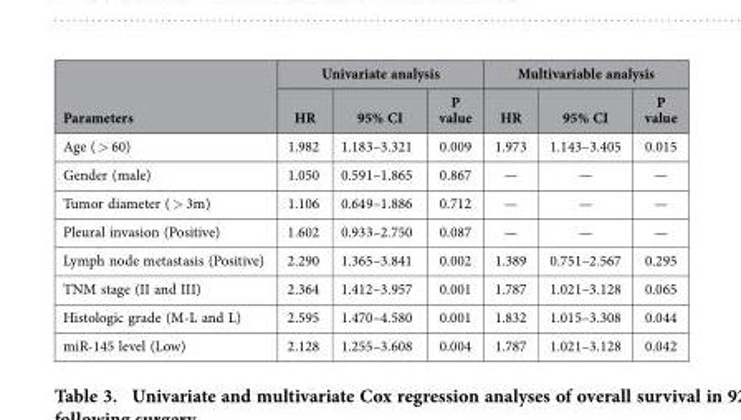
<table><thead><tr><td rowspan="2">Parameters</td><td colspan="3">Univariate analysis</td><td colspan="3">Multivariable analysis</td></tr><tr><td>HR</td><td>95% CI</td><td>P value</td><td>HR</td><td>95% CI</td><td>P value</td></tr></thead><tbody><tr><td>Age ( &gt; 60)</td><td>1.982</td><td>1.183–3.321</td><td>0.009</td><td>1.973</td><td>1.143–3.405</td><td>0.015</td></tr><tr><td>Gender (male)</td><td>1.050</td><td>0.591–1.865</td><td>0.867</td><td>—</td><td>—</td><td>—</td></tr><tr><td>Tumor diameter ( &gt; 3m)</td><td>1.106</td><td>0.649–1.886</td><td>0.712</td><td>—</td><td>—</td><td>—</td></tr><tr><td>Pleural invasion (Positive)</td><td>1.602</td><td>0.933–2.750</td><td>0.087</td><td>—</td><td>—</td><td>—</td></tr><tr><td>Lymph node metastasis (Positive)</td><td>2.290</td><td>1.365–3.841</td><td>0.002</td><td>1.389</td><td>0.751–2.567</td><td>0.295</td></tr><tr><td>TNM stage (II and III)</td><td>2.364</td><td>1.412–3.957</td><td>0.001</td><td>1.787</td><td>1.021–3.128</td><td>0.065</td></tr><tr><td>Histologic grade (M-L and L)</td><td>2.595</td><td>1.470–4.580</td><td>0.001</td><td>1.832</td><td>1.015–3.308</td><td>0.044</td></tr><tr><td>miR-145 level (Low)</td><td>2.128</td><td>1.255–3.608</td><td>0.004</td><td>1.787</td><td>1.021–3.128</td><td>0.042</td></tr></tbody></table>